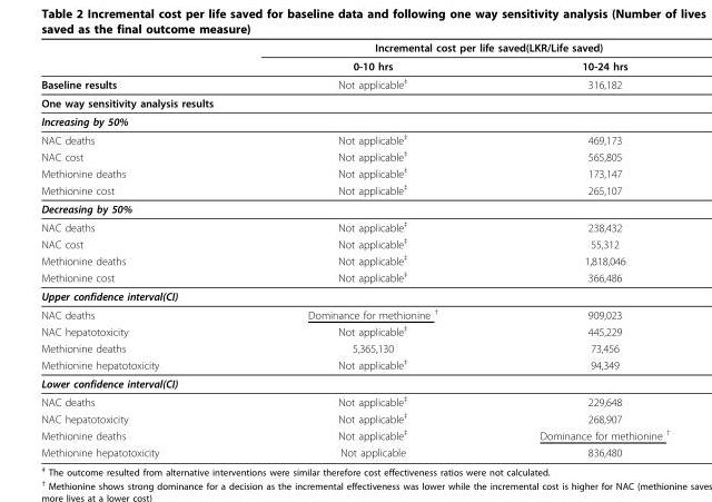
<table><thead><tr><td rowspan="2"></td><td colspan="2">Incremental cost per life saved(LKR/Life saved)</td></tr><tr><td>0-10 hrs</td><td>10-24 hrs</td></tr></thead><tbody><tr><td>Baseline results</td><td>Not applicable<sup>‡</sup></td><td>316,182</td></tr><tr><td colspan="3">One way sensitivity analysis results</td></tr><tr><td colspan="3">Increasing by 50%</td></tr><tr><td>NAC deaths</td><td>Not applicable<sup>‡</sup></td><td>469,173</td></tr><tr><td>NAC cost</td><td>Not applicable<sup>‡</sup></td><td>565,805</td></tr><tr><td>Methionine deaths</td><td>Not applicable<sup>‡</sup></td><td>173,147</td></tr><tr><td>Methionine cost</td><td>Not applicable<sup>‡</sup></td><td>265,107</td></tr><tr><td colspan="3">Decreasing by 50%</td></tr><tr><td>NAC deaths</td><td>Not applicable<sup>‡</sup></td><td>238,432</td></tr><tr><td>NAC cost</td><td>Not applicable<sup>‡</sup></td><td>55,312</td></tr><tr><td>Methionine deaths</td><td>Not applicable<sup>‡</sup></td><td>1,818,046</td></tr><tr><td>Methionine cost</td><td>Not applicable<sup>‡</sup></td><td>366,486</td></tr><tr><td colspan="3">Upper confidence interval(CI)</td></tr><tr><td>NAC deaths</td><td>Dominance for methionine <sup>†</sup></td><td>909,023</td></tr><tr><td>NAC hepatotoxicity</td><td>Not applicable<sup>‡</sup></td><td>445,229</td></tr><tr><td>Methionine deaths</td><td>5,365,130</td><td>73,456</td></tr><tr><td>Methionine hepatotoxicity</td><td>Not applicable<sup>‡</sup></td><td>94,349</td></tr><tr><td colspan="3">Lower confidence interval(CI)</td></tr><tr><td>NAC deaths</td><td>Not applicable<sup>‡</sup></td><td>229,648</td></tr><tr><td>NAC hepatotoxicity</td><td>Not applicable<sup>‡</sup></td><td>268,907</td></tr><tr><td>Methionine deaths</td><td>Not applicable<sup>‡</sup></td><td>Dominance for methionine <sup>†</sup></td></tr><tr><td>Methionine hepatotoxicity</td><td>Not applicable</td><td>836,480</td></tr></tbody></table>